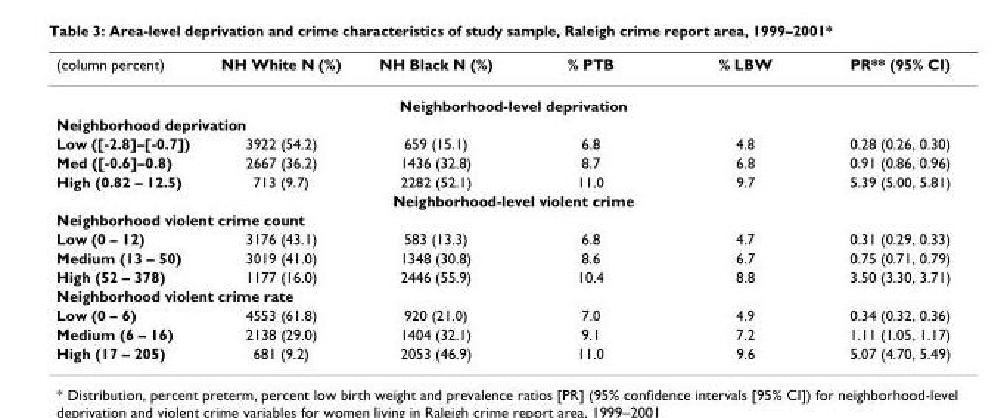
<table><thead><tr><td>(column percent)</td><td>NH White N (%)</td><td>NH Black N (%)</td><td>% PTB</td><td>% LBW</td><td>PR** (95% CI)</td></tr></thead><tbody><tr><td colspan="6">Neighborhood-level deprivation</td></tr><tr><td colspan="6">Neighborhood deprivation</td></tr><tr><td>Low ([-2.8]–[-0.7])</td><td>3922 (54.2)</td><td>659 (15.1)</td><td>6.8</td><td>4.8</td><td>0.28 (0.26, 0.30)</td></tr><tr><td>Med ([-0.6]–0.8)</td><td>2667 (36.2)</td><td>1436 (32.8)</td><td>8.7</td><td>6.8</td><td>0.91 (0.86, 0.96)</td></tr><tr><td>High (0.82 – 12.5)</td><td>713 (9.7)</td><td>2282 (52.1)</td><td>11.0</td><td>9.7</td><td>5.39 (5.00, 5.81)</td></tr><tr><td colspan="6">Neighborhood-level violent crime</td></tr><tr><td colspan="6">Neighborhood violent crime count</td></tr><tr><td>Low (0 – 12)</td><td>3176 (43.1)</td><td>583 (13.3)</td><td>6.8</td><td>4.7</td><td>0.31 (0.29, 0.33)</td></tr><tr><td>Medium (13 – 50)</td><td>3019 (41.0)</td><td>1348 (30.8)</td><td>8.6</td><td>6.7</td><td>0.75 (0.71, 0.79)</td></tr><tr><td>High (52 – 378)</td><td>1177 (16.0)</td><td>2446 (55.9)</td><td>10.4</td><td>8.8</td><td>3.50 (3.30, 3.71)</td></tr><tr><td colspan="6">Neighborhood violent crime rate</td></tr><tr><td>Low (0 – 6)</td><td>4553 (61.8)</td><td>920 (21.0)</td><td>7.0</td><td>4.9</td><td>0.34 (0.32, 0.36)</td></tr><tr><td>Medium (6 – 16)</td><td>2138 (29.0)</td><td>1404 (32.1)</td><td>9.1</td><td>7.2</td><td>1.11 (1.05, 1.17)</td></tr><tr><td>High (17 – 205)</td><td>681 (9.2)</td><td>2053 (46.9)</td><td>11.0</td><td>9.6</td><td>5.07 (4.70, 5.49)</td></tr></tbody></table>